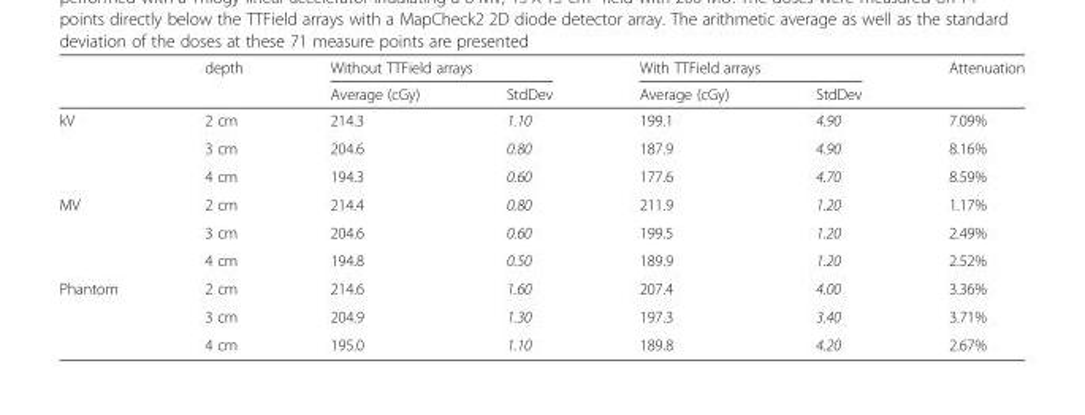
<table><thead><tr><td rowspan="2"></td><td rowspan="2">depth</td><td colspan="2">Without TTField arrays</td><td colspan="2">With TTField arrays</td><td rowspan="2">Attenuation</td></tr><tr><td>Average (cGy)</td><td>StdDev</td><td>Average (cGy)</td><td>StdDev</td></tr></thead><tbody><tr><td rowspan="3">kV</td><td>2 cm</td><td>214.3</td><td>1.10</td><td>199.1</td><td>4.90</td><td>7.09%</td></tr><tr><td>3 cm</td><td>204.6</td><td>0.80</td><td>187.9</td><td>4.90</td><td>8.16%</td></tr><tr><td>4 cm</td><td>194.3</td><td>0.60</td><td>177.6</td><td>4.70</td><td>8.59%</td></tr><tr><td rowspan="3">MV</td><td>2 cm</td><td>214.4</td><td>0.80</td><td>211.9</td><td>1.20</td><td>1.17%</td></tr><tr><td>3 cm</td><td>204.6</td><td>0.60</td><td>199.5</td><td>1.20</td><td>2.49%</td></tr><tr><td>4 cm</td><td>194.8</td><td>0.50</td><td>189.9</td><td>1.20</td><td>2.52%</td></tr><tr><td rowspan="3">Phantom</td><td>2 cm</td><td>214.6</td><td>1.60</td><td>207.4</td><td>4.00</td><td>3.36%</td></tr><tr><td>3 cm</td><td>204.9</td><td>1.30</td><td>197.3</td><td>3.40</td><td>3.71%</td></tr><tr><td>4 cm</td><td>195.0</td><td>1.10</td><td>189.8</td><td>4.20</td><td>2.67%</td></tr></tbody></table>